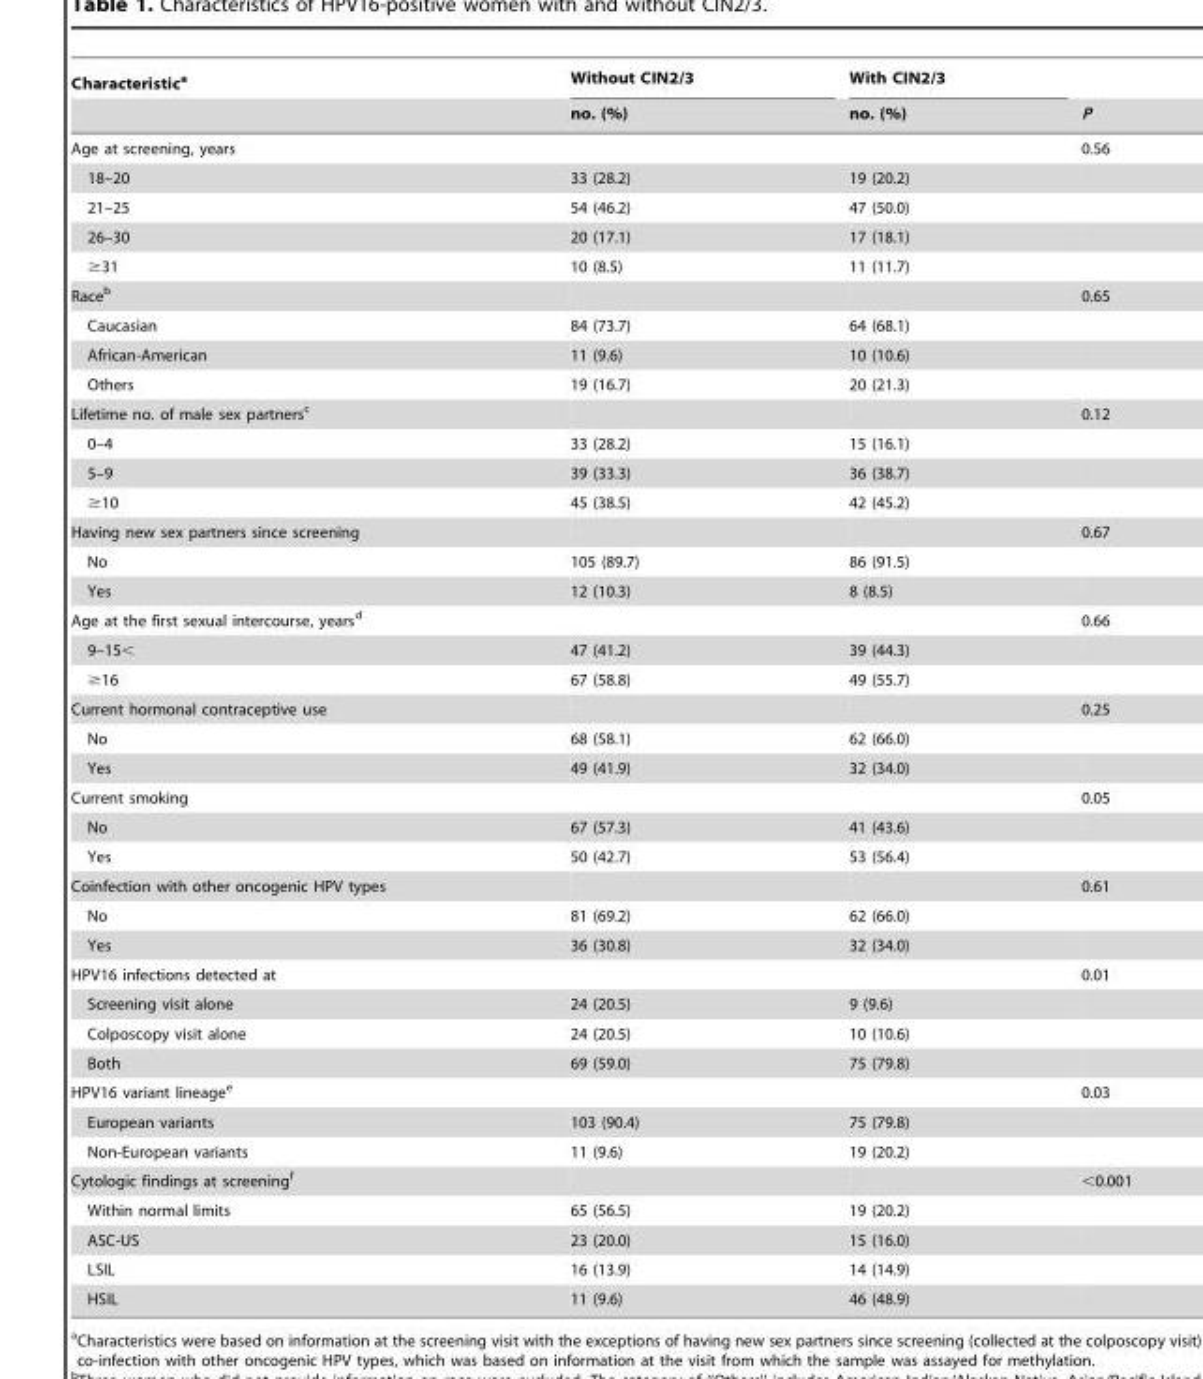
<table><thead><tr><td rowspan="2">Characteristic<sup>a</sup></td><td rowspan="2">Without CIN2/3 no. (%)</td><td rowspan="2">With CIN2/3 no. (%)</td><td rowspan="2">P</td></tr><tr></tr></thead><tbody><tr><td>Age at screening, years</td><td></td><td></td><td>0.56</td></tr><tr><td>18–20</td><td>33 (28.2)</td><td>19 (20.2)</td><td></td></tr><tr><td>21–25</td><td>54 (46.2)</td><td>47 (50.0)</td><td></td></tr><tr><td>26–30</td><td>20 (17.1)</td><td>17 (18.1)</td><td></td></tr><tr><td>≥31</td><td>10 (8.5)</td><td>11 (11.7)</td><td></td></tr><tr><td>Race<sup>b</sup></td><td></td><td></td><td>0.65</td></tr><tr><td>Caucasian</td><td>84 (73.7)</td><td>64 (68.1)</td><td></td></tr><tr><td>African-American</td><td>11 (9.6)</td><td>10 (10.6)</td><td></td></tr><tr><td>Others</td><td>19 (16.7)</td><td>20 (21.3)</td><td></td></tr><tr><td>Lifetime no. of male sex partners<sup>c</sup></td><td></td><td></td><td>0.12</td></tr><tr><td>0–4</td><td>33 (28.2)</td><td>15 (16.1)</td><td></td></tr><tr><td>5–9</td><td>39 (33.3)</td><td>36 (38.7)</td><td></td></tr><tr><td>≥10</td><td>45 (38.5)</td><td>42 (45.2)</td><td></td></tr><tr><td>Having new sex partners since screening</td><td></td><td></td><td>0.67</td></tr><tr><td>No</td><td>105 (89.7)</td><td>86 (91.5)</td><td></td></tr><tr><td>Yes</td><td>12 (10.3)</td><td>8 (8.5)</td><td></td></tr><tr><td>Age at the first sexual intercourse, years<sup>d</sup></td><td></td><td></td><td>0.66</td></tr><tr><td>9–15&lt;</td><td>47 (41.2)</td><td>39 (44.3)</td><td></td></tr><tr><td>≥16</td><td>67 (58.8)</td><td>49 (55.7)</td><td></td></tr><tr><td>Current hormonal contraceptive use</td><td></td><td></td><td>0.25</td></tr><tr><td>No</td><td>68 (58.1)</td><td>62 (66.0)</td><td></td></tr><tr><td>Yes</td><td>49 (41.9)</td><td>32 (34.0)</td><td></td></tr><tr><td>Current smoking</td><td></td><td></td><td>0.05</td></tr><tr><td>No</td><td>67 (57.3)</td><td>41 (43.6)</td><td></td></tr><tr><td>Yes</td><td>50 (42.7)</td><td>53 (56.4)</td><td></td></tr><tr><td>Coinfection with other oncogenic HPV types</td><td></td><td></td><td>0.61</td></tr><tr><td>No</td><td>81 (69.2)</td><td>62 (66.0)</td><td></td></tr><tr><td>Yes</td><td>36 (30.8)</td><td>32 (34.0)</td><td></td></tr><tr><td>HPV16 infections detected at</td><td></td><td></td><td>0.01</td></tr><tr><td>Screening visit alone</td><td>24 (20.5)</td><td>9 (9.6)</td><td></td></tr><tr><td>Colposcopy visit alone</td><td>24 (20.5)</td><td>10 (10.6)</td><td></td></tr><tr><td>Both</td><td>69 (59.0)</td><td>75 (79.8)</td><td></td></tr><tr><td>HPV16 variant lineage<sup>e</sup></td><td></td><td></td><td>0.03</td></tr><tr><td>European variants</td><td>103 (90.4)</td><td>75 (79.8)</td><td></td></tr><tr><td>Non-European variants</td><td>11 (9.6)</td><td>19 (20.2)</td><td></td></tr><tr><td>Cytologic findings at screening<sup>f</sup></td><td></td><td></td><td>&lt;0.001</td></tr><tr><td>Within normal limits</td><td>65 (56.5)</td><td>19 (20.2)</td><td></td></tr><tr><td>ASC-US</td><td>23 (20.0)</td><td>15 (16.0)</td><td></td></tr><tr><td>LSIL</td><td>16 (13.9)</td><td>14 (14.9)</td><td></td></tr><tr><td>HSIL</td><td>11 (9.6)</td><td>46 (48.9)</td><td></td></tr></tbody></table>